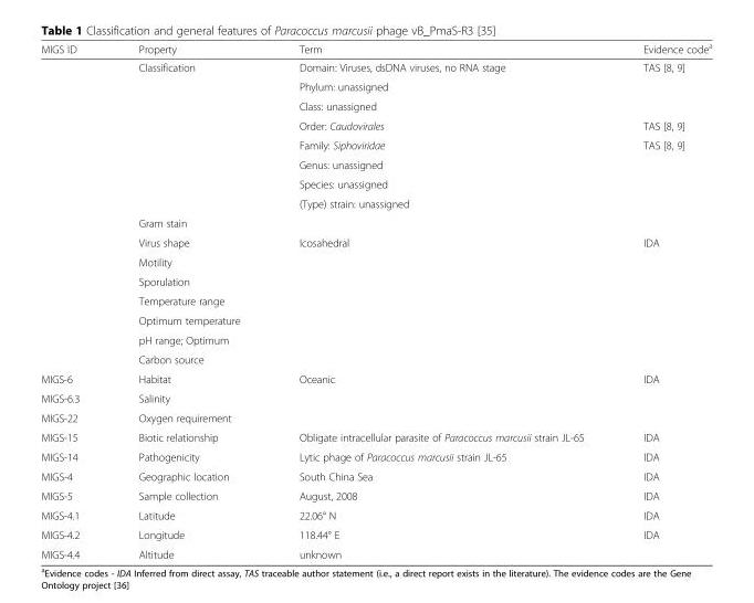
<table><thead><tr><td>MIGS ID</td><td>Property</td><td>Term</td><td>Evidence code<sup>a</sup></td></tr></thead><tbody><tr><td></td><td>Classification</td><td>Domain: Viruses, dsDNA viruses, no RNA stage</td><td>TAS [8, 9]</td></tr><tr><td></td><td></td><td>Phylum: unassigned</td><td></td></tr><tr><td></td><td></td><td>Class: unassigned</td><td></td></tr><tr><td></td><td></td><td>Order: Caudovirales</td><td>TAS [8, 9]</td></tr><tr><td></td><td></td><td>Family: Siphoviridae</td><td>TAS [8, 9]</td></tr><tr><td></td><td></td><td>Genus: unassigned</td><td></td></tr><tr><td></td><td></td><td>Species: unassigned</td><td></td></tr><tr><td></td><td></td><td>(Type) strain: unassigned</td><td></td></tr><tr><td></td><td>Gram stain</td><td></td><td></td></tr><tr><td></td><td>Virus shape</td><td>Icosahedral</td><td>IDA</td></tr><tr><td></td><td>Motility</td><td></td><td></td></tr><tr><td></td><td>Sporulation</td><td></td><td></td></tr><tr><td></td><td>Temperature range</td><td></td><td></td></tr><tr><td></td><td>Optimum temperature</td><td></td><td></td></tr><tr><td></td><td>pH range; Optimum</td><td></td><td></td></tr><tr><td></td><td>Carbon source</td><td></td><td></td></tr><tr><td>MIGS-6</td><td>Habitat</td><td>Oceanic</td><td>IDA</td></tr><tr><td>MIGS-6.3</td><td>Salinity</td><td></td><td></td></tr><tr><td>MIGS-22</td><td>Oxygen requirement</td><td></td><td></td></tr><tr><td>MIGS-15</td><td>Biotic relationship</td><td>Obligate intracellular parasite of Paracoccus marcusii strain JL-65</td><td>IDA</td></tr><tr><td>MIGS-14</td><td>Pathogenicity</td><td>Lytic phage of Paracoccus marcusii strain JL-65</td><td>IDA</td></tr><tr><td>MIGS-4</td><td>Geographic location</td><td>South China Sea</td><td>IDA</td></tr><tr><td>MIGS-5</td><td>Sample collection</td><td>August, 2008</td><td>IDA</td></tr><tr><td>MIGS-4.1</td><td>Latitude</td><td>22.06° N</td><td>IDA</td></tr><tr><td>MIGS-4.2</td><td>Longitude</td><td>118.44° E</td><td>IDA</td></tr><tr><td>MIGS-4.4</td><td>Altitude</td><td>unknown</td><td></td></tr></tbody></table>